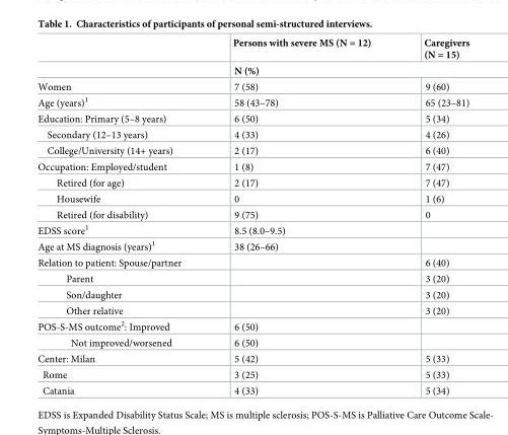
<table><thead><tr><td></td><td>Persons with severe MS (N = 12)</td><td>Caregivers (N = 15)</td></tr></thead><tbody><tr><td></td><td colspan="2">N (%)</td></tr><tr><td>Women</td><td>7 (58)</td><td>9 (60)</td></tr><tr><td>Age (years)<sup>1</sup></td><td>58 (43–78)</td><td>65 (23–81)</td></tr><tr><td>Education: Primary (5–8 years)</td><td>6 (50)</td><td>5 (34)</td></tr><tr><td>Secondary (12–13 years)</td><td>4 (33)</td><td>4 (26)</td></tr><tr><td>College/University (14+ years)</td><td>2 (17)</td><td>6 (40)</td></tr><tr><td>Occupation: Employed/student</td><td>1 (8)</td><td>7 (47)</td></tr><tr><td>Retired (for age)</td><td>2 (17)</td><td>7 (47)</td></tr><tr><td>Housewife</td><td>0</td><td>1 (6)</td></tr><tr><td>Retired (for disability)</td><td>9 (75)</td><td>0</td></tr><tr><td>EDSS score<sup>1</sup></td><td>8.5 (8.0–9.5)</td><td></td></tr><tr><td>Age at MS diagnosis (years)<sup>1</sup></td><td>38 (26–66)</td><td></td></tr><tr><td>Relation to patient: Spouse/partner</td><td></td><td>6 (40)</td></tr><tr><td>Parent</td><td></td><td>3 (20)</td></tr><tr><td>Son/daughter</td><td></td><td>3 (20)</td></tr><tr><td>Other relative</td><td></td><td>3 (20)</td></tr><tr><td>POS-S-MS outcome<sup>2</sup>: Improved</td><td>6 (50)</td><td></td></tr><tr><td>Not improved/worsened</td><td>6 (50)</td><td></td></tr><tr><td>Center: Milan</td><td>5 (42)</td><td>5 (33)</td></tr><tr><td>Rome</td><td>3 (25)</td><td>5 (33)</td></tr><tr><td>Catania</td><td>4 (33)</td><td>5 (34)</td></tr></tbody></table>